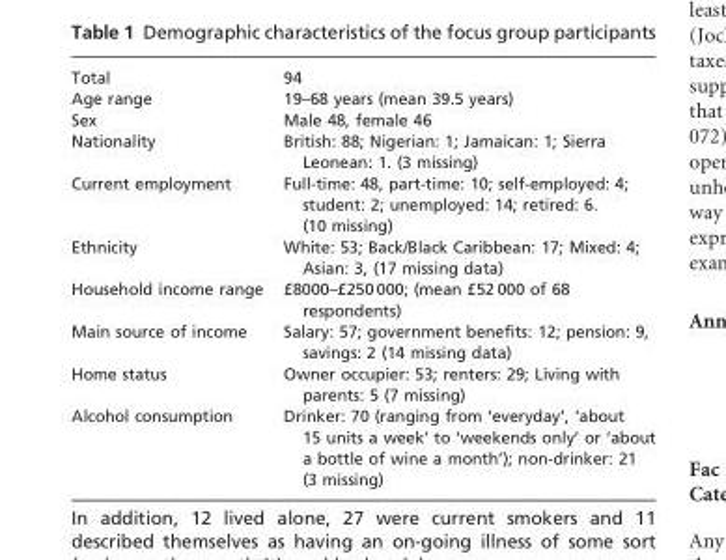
<table><tbody><tr><td>Total</td><td>94</td></tr><tr><td>Age range</td><td>19–68 years (mean 39.5 years)</td></tr><tr><td>Sex</td><td>Male 48, female 46</td></tr><tr><td>Nationality</td><td>British: 88; Nigerian: 1; Jamaican: 1; Sierra Leonean: 1. (3 missing)</td></tr><tr><td>Current employment</td><td>Full-time: 48, part-time: 10; self-employed: 4; student: 2; unemployed: 14; retired: 6. (10 missing)</td></tr><tr><td>Ethnicity</td><td>White: 53; Back/Black Caribbean: 17; Mixed: 4; Asian: 3, (17 missing data)</td></tr><tr><td>Household income range</td><td>£8000–£250 000; (mean £52 000 of 68 respondents)</td></tr><tr><td>Main source of income</td><td>Salary: 57; government benefits: 12; pension: 9, savings: 2 (14 missing data)</td></tr><tr><td>Home status</td><td>Owner occupier: 53; renters: 29; Living with parents: 5 (7 missing)</td></tr><tr><td>Alcohol consumption</td><td>Drinker: 70 (ranging from ‘everyday’, ‘about 15 units a week’ to ‘weekends only’ or ‘about a bottle of wine a month’); non-drinker: 21 (3 missing)</td></tr></tbody></table>